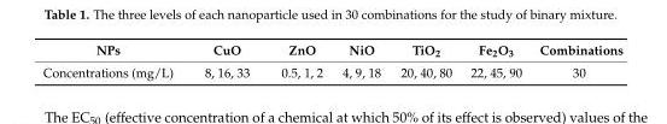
<table><thead><tr><td>NPs</td><td>CuO</td><td>ZnO</td><td>NiO</td><td>TiO<sub>2</sub></td><td>Fe<sub>2</sub>O<sub>3</sub></td><td>Combinations</td></tr></thead><tbody><tr><td>Concentrations (mg/L)</td><td>8, 16, 33</td><td>0.5, 1, 2</td><td>4, 9, 18</td><td>20, 40, 80</td><td>22, 45, 90</td><td>30</td></tr></tbody></table>